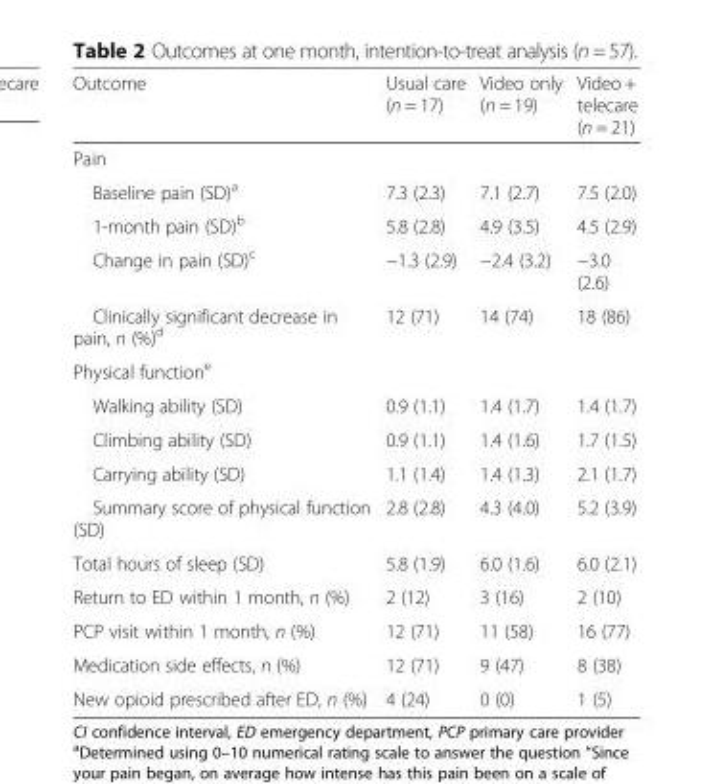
<table><thead><tr><td>Outcome</td><td>Usual care (n = 17)</td><td>Video only (n = 19)</td><td>Video + telecare (n = 21)</td></tr></thead><tbody><tr><td colspan="4">Pain</td></tr><tr><td>Baseline pain (SD)<sup>a</sup></td><td>7.3 (2.3)</td><td>7.1 (2.7)</td><td>7.5 (2.0)</td></tr><tr><td>1-month pain (SD)<sup>b</sup></td><td>5.8 (2.8)</td><td>4.9 (3.5)</td><td>4.5 (2.9)</td></tr><tr><td>Change in pain (SD)<sup>c</sup></td><td>−1.3 (2.9)</td><td>−2.4 (3.2)</td><td>−3.0 (2.6)</td></tr><tr><td>Clinically significant decrease in pain, n (%)<sup>d</sup></td><td>12 (71)</td><td>14 (74)</td><td>18 (86)</td></tr><tr><td colspan="4">Physical function<sup>e</sup></td></tr><tr><td>Walking ability (SD)</td><td>0.9 (1.1)</td><td>1.4 (1.7)</td><td>1.4 (1.7)</td></tr><tr><td>Climbing ability (SD)</td><td>0.9 (1.1)</td><td>1.4 (1.6)</td><td>1.7 (1.5)</td></tr><tr><td>Carrying ability (SD)</td><td>1.1 (1.4)</td><td>1.4 (1.3)</td><td>2.1 (1.7)</td></tr><tr><td>Summary score of physical function (SD)</td><td>2.8 (2.8)</td><td>4.3 (4.0)</td><td>5.2 (3.9)</td></tr><tr><td>Total hours of sleep (SD)</td><td>5.8 (1.9)</td><td>6.0 (1.6)</td><td>6.0 (2.1)</td></tr><tr><td>Return to ED within 1 month, n (%)</td><td>2 (12)</td><td>3 (16)</td><td>2 (10)</td></tr><tr><td>PCP visit within 1 month, n (%)</td><td>12 (71)</td><td>11 (58)</td><td>16 (77)</td></tr><tr><td>Medication side effects, n (%)</td><td>12 (71)</td><td>9 (47)</td><td>8 (38)</td></tr><tr><td>New opioid prescribed after ED, n (%)</td><td>4 (24)</td><td>0 (0)</td><td>1 (5)</td></tr></tbody></table>